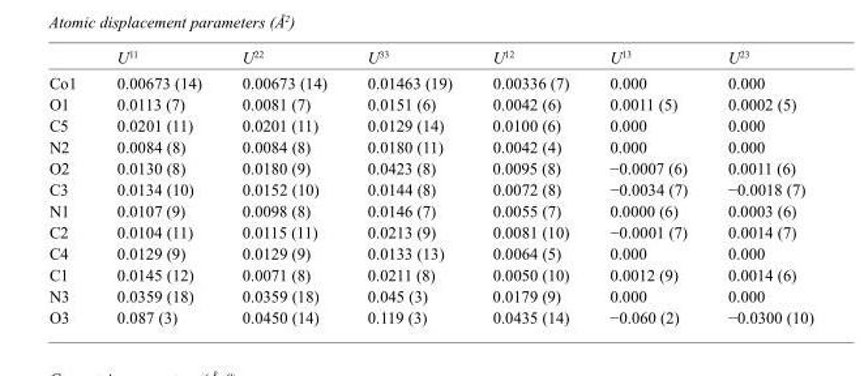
<table><thead><tr><td></td><td>U<sup>11</sup></td><td>U<sup>22</sup></td><td>U<sup>33</sup></td><td>U<sup>12</sup></td><td>U<sup>13</sup></td><td>U<sup>23</sup></td></tr></thead><tbody><tr><td>Co1</td><td>0.00673 (14)</td><td>0.00673 (14)</td><td>0.01463 (19)</td><td>0.00336 (7)</td><td>0.000</td><td>0.000</td></tr><tr><td>O1</td><td>0.0113 (7)</td><td>0.0081 (7)</td><td>0.0151 (6)</td><td>0.0042 (6)</td><td>0.0011 (5)</td><td>0.0002 (5)</td></tr><tr><td>C5</td><td>0.0201 (11)</td><td>0.0201 (11)</td><td>0.0129 (14)</td><td>0.0100 (6)</td><td>0.000</td><td>0.000</td></tr><tr><td>N2</td><td>0.0084 (8)</td><td>0.0084 (8)</td><td>0.0180 (11)</td><td>0.0042 (4)</td><td>0.000</td><td>0.000</td></tr><tr><td>O2</td><td>0.0130 (8)</td><td>0.0180 (9)</td><td>0.0423 (8)</td><td>0.0095 (8)</td><td>−0.0007 (6)</td><td>0.0011 (6)</td></tr><tr><td>C3</td><td>0.0134 (10)</td><td>0.0152 (10)</td><td>0.0144 (8)</td><td>0.0072 (8)</td><td>−0.0034 (7)</td><td>−0.0018 (7)</td></tr><tr><td>N1</td><td>0.0107 (9)</td><td>0.0098 (8)</td><td>0.0146 (7)</td><td>0.0055 (7)</td><td>0.0000 (6)</td><td>0.0003 (6)</td></tr><tr><td>C2</td><td>0.0104 (11)</td><td>0.0115 (11)</td><td>0.0213 (9)</td><td>0.0081 (10)</td><td>−0.0001 (7)</td><td>0.0014 (7)</td></tr><tr><td>C4</td><td>0.0129 (9)</td><td>0.0129 (9)</td><td>0.0133 (13)</td><td>0.0064 (5)</td><td>0.000</td><td>0.000</td></tr><tr><td>C1</td><td>0.0145 (12)</td><td>0.0071 (8)</td><td>0.0211 (8)</td><td>0.0050 (10)</td><td>0.0012 (9)</td><td>0.0014 (6)</td></tr><tr><td>N3</td><td>0.0359 (18)</td><td>0.0359 (18)</td><td>0.045 (3)</td><td>0.0179 (9)</td><td>0.000</td><td>0.000</td></tr><tr><td>O3</td><td>0.087 (3)</td><td>0.0450 (14)</td><td>0.119 (3)</td><td>0.0435 (14)</td><td>−0.060 (2)</td><td>−0.0300 (10)</td></tr></tbody></table>